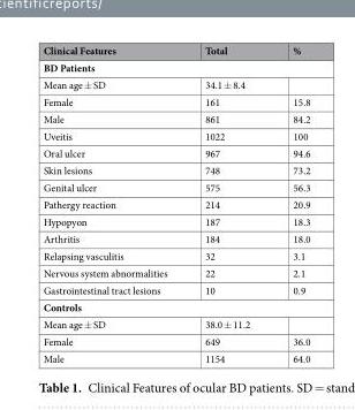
<table><thead><tr><td>Clinical Features</td><td>Total</td><td>%</td></tr></thead><tbody><tr><td colspan="3">BD Patients</td></tr><tr><td>Mean age ± SD</td><td>34.1 ± 8.4</td><td></td></tr><tr><td>Female</td><td>161</td><td>15.8</td></tr><tr><td>Male</td><td>861</td><td>84.2</td></tr><tr><td>Uveitis</td><td>1022</td><td>100</td></tr><tr><td>Oral ulcer</td><td>967</td><td>94.6</td></tr><tr><td>Skin lesions</td><td>748</td><td>73.2</td></tr><tr><td>Genital ulcer</td><td>575</td><td>56.3</td></tr><tr><td>Pathergy reaction</td><td>214</td><td>20.9</td></tr><tr><td>Hypopyon</td><td>187</td><td>18.3</td></tr><tr><td>Arthritis</td><td>184</td><td>18.0</td></tr><tr><td>Relapsing vasculitis</td><td>32</td><td>3.1</td></tr><tr><td>Nervous system abnormalities</td><td>22</td><td>2.1</td></tr><tr><td>Gastrointestinal tract lesions</td><td>10</td><td>0.9</td></tr><tr><td colspan="3">Controls</td></tr><tr><td>Mean age ± SD</td><td>38.0 ± 11.2</td><td></td></tr><tr><td>Female</td><td>649</td><td>36.0</td></tr><tr><td>Male</td><td>1154</td><td>64.0</td></tr></tbody></table>